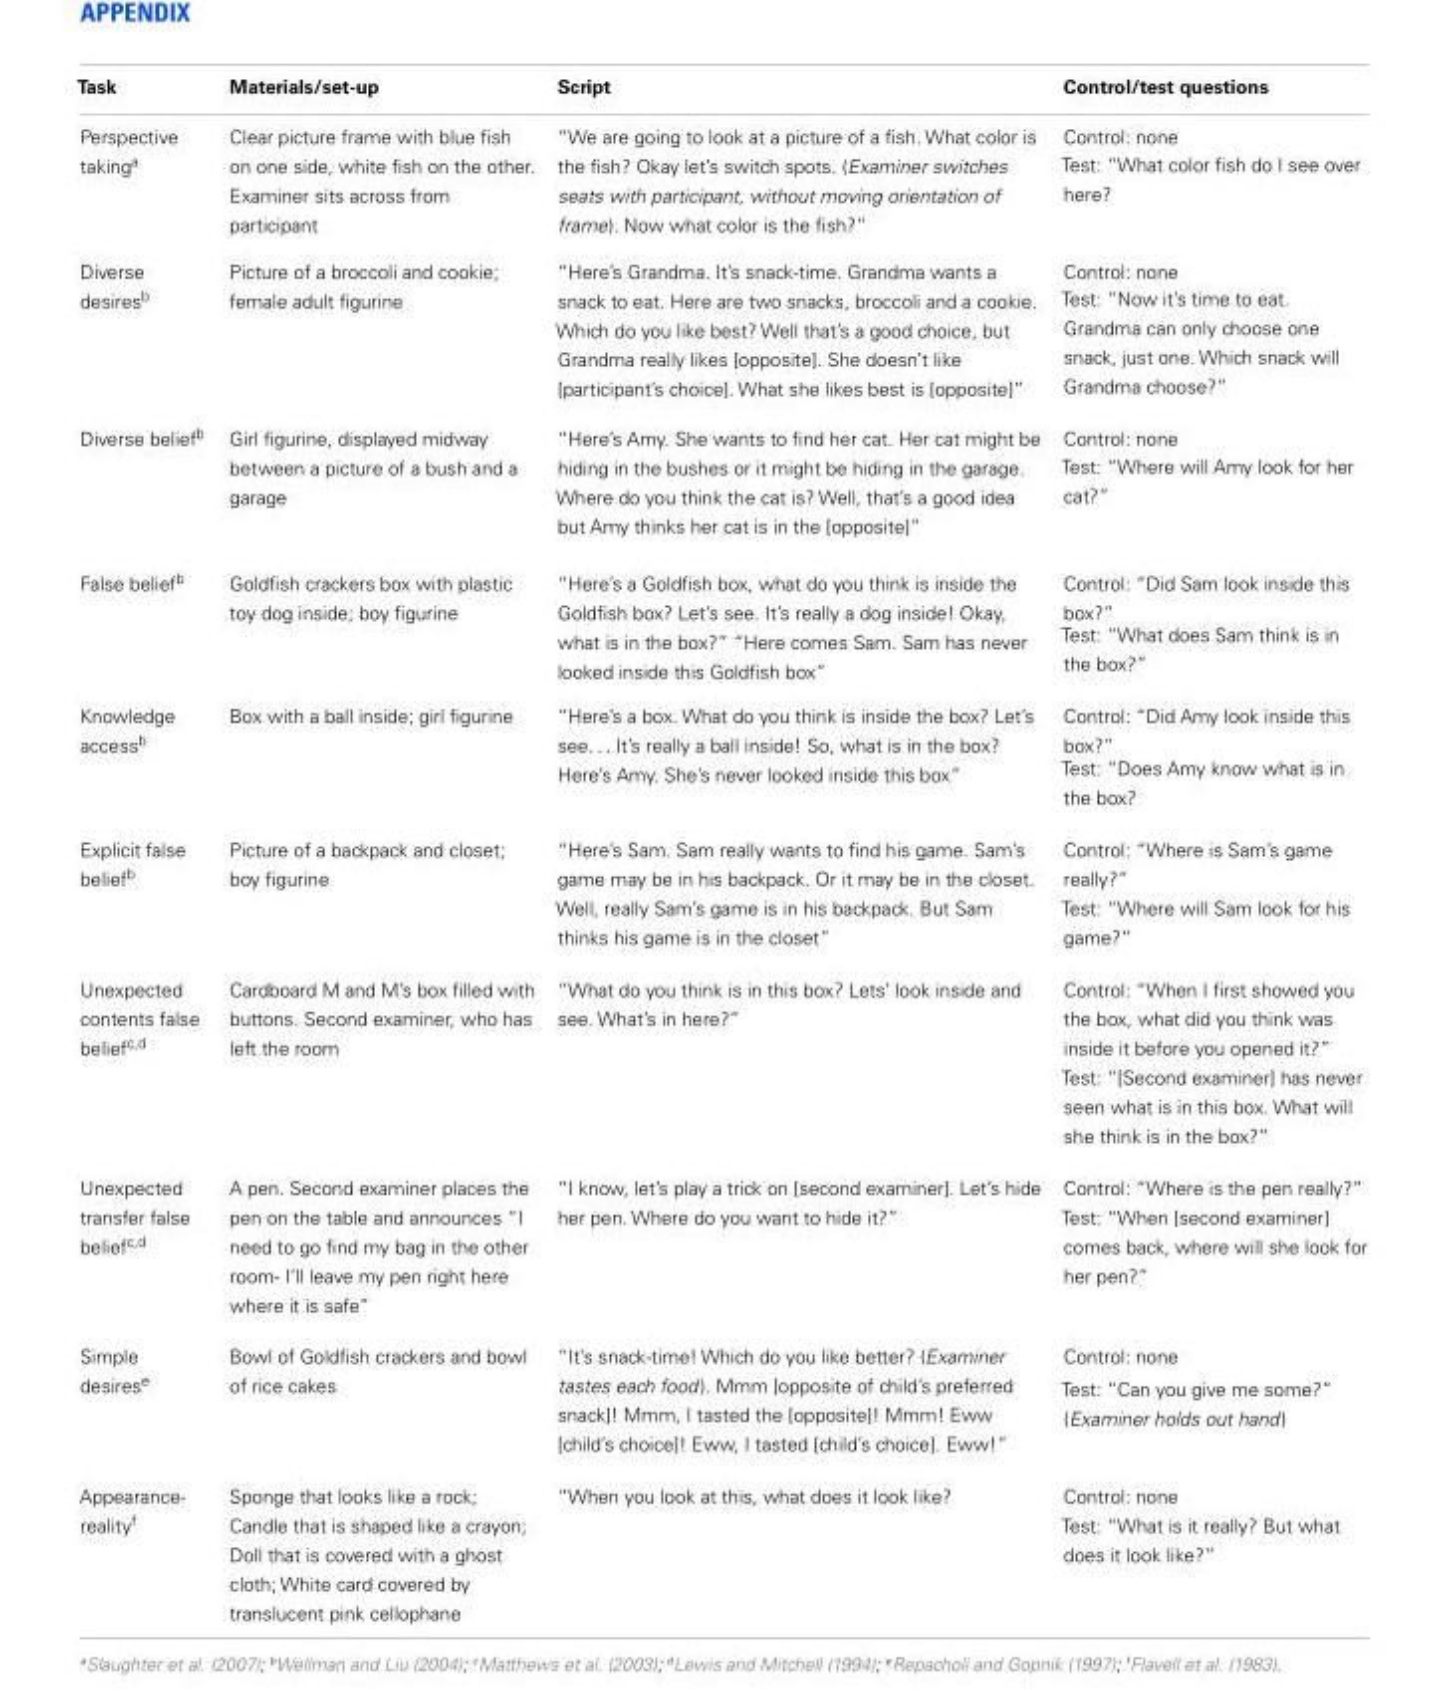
<table><thead><tr><td>Task</td><td>Materials/set-up</td><td>Script</td><td>Control/test questions</td></tr></thead><tbody><tr><td>Perspective taking<sup>a</sup></td><td>Clear picture frame with blue fish on one side, white fish on the other. Examiner sits across from participant</td><td>“We are going to look at a picture of a fish. What color is the fish? Okay let’s switch spots. (Examiner switches seats with participant, without moving orientation of frame). Now what color is the fish?”</td><td>Control: none Test: “What color fish do I see over here?</td></tr><tr><td>Diverse desires<sup>b</sup></td><td>Picture of a broccoli and cookie; female adult figurine</td><td>“Here’s Grandma. It’s snack-time. Grandma wants a snack to eat. Here are two snacks, broccoli and a cookie. Which do you like best? Well that’s a good choice, but Grandma really likes [opposite]. She doesn’t like [participant’s choice]. What she likes best is [opposite]”</td><td>Control: none Test: “Now it’s time to eat. Grandma can only choose one snack, just one. Which snack will Grandma choose?”</td></tr><tr><td>Diverse belief<sup>b</sup></td><td>Girl figurine, displayed midway between a picture of a bush and a garage</td><td>“Here’s Amy. She wants to find her cat. Her cat might be hiding in the bushes or it might be hiding in the garage. Where do you think the cat is? Well, that’s a good idea but Amy thinks her cat is in the [opposite]”</td><td>Control: none Test: “Where will Amy look for her cat?”</td></tr><tr><td>False belief<sup>b</sup></td><td>Goldfish crackers box with plastic toy dog inside; boy figurine</td><td>“Here’s a Goldfish box, what do you think is inside the Goldfish box? Let’s see. It’s really a dog inside! Okay, what is in the box?” “Here comes Sam. Sam has never looked inside this Goldfish box”</td><td>Control: “Did Sam look inside this box?” Test: “What does Sam think is in the box?”</td></tr><tr><td>Knowledge access<sup>b</sup></td><td>Box with a ball inside; girl figurine</td><td>“Here’s a box. What do you think is inside the box? Let’s see. . . It’s really a ball inside! So, what is in the box? Here’s Amy. She’s never looked inside this box”</td><td>Control: “Did Amy look inside this box?” Test: “Does Amy know what is in the box?</td></tr><tr><td>Explicit false belief<sup>b</sup></td><td>Picture of a backpack and closet; boy figurine</td><td>“Here’s Sam. Sam really wants to find his game. Sam’s game may be in his backpack. Or it may be in the closet. Well, really Sam’s game is in his backpack. But Sam thinks his game is in the closet”</td><td>Control: “Where is Sam’s game really?” Test: “Where will Sam look for his game?”</td></tr><tr><td>Unexpected contents false belief<sup>c,d</sup></td><td>Cardboard M and M’s box filled with buttons. Second examiner, who has left the room</td><td>“What do you think is in this box? Lets’ look inside and see. What’s in here?”</td><td>Control: “When I first showed you the box, what did you think was inside it before you opened it?” Test: “[Second examiner] has never seen what is in this box. What will she think is in the box?”</td></tr><tr><td>Unexpected transfer false belief<sup>c,d</sup></td><td>A pen. Second examiner places the pen on the table and announces “I need to go find my bag in the other room- I’ll leave my pen right here where it is safe”</td><td>“I know, let’s play a trick on [second examiner]. Let’s hide her pen. Where do you want to hide it?”</td><td>Control: “Where is the pen really?” Test: “When [second examiner] comes back, where will she look for her pen?”</td></tr><tr><td>Simple desires<sup>e</sup></td><td>Bowl of Goldfish crackers and bowl of rice cakes</td><td>“It’s snack-time! Which do you like better? (Examiner tastes each food). Mmm [opposite of child’s preferred snack]! Mmm, I tasted the [opposite]! Mmm! Eww [child’s choice]! Eww, I tasted [child’s choice]. Eww!”</td><td>Control: none Test: “Can you give me some?” (Examiner holds out hand)</td></tr><tr><td>Appearance- reality<sup>f</sup></td><td>Sponge that looks like a rock; Candle that is shaped like a crayon; Doll that is covered with a ghost cloth; White card covered by translucent pink cellophane</td><td>“When you look at this, what does it look like?</td><td>Control: none Test: “What is it really? But what does it look like?”</td></tr></tbody></table>